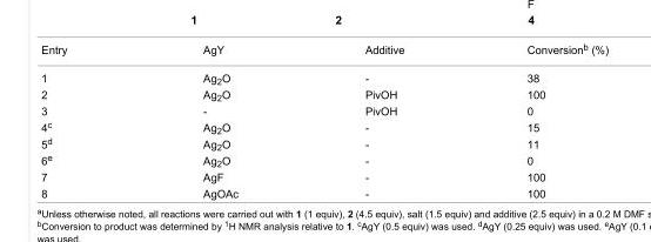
<table><tbody><tr><td>Entry</td><td>AgY</td><td>Additive</td><td>Conversion<sup>b</sup> (%)</td></tr><tr><td>1</td><td>Ag<sub>2</sub>O</td><td>-</td><td>38</td></tr><tr><td>2</td><td>Ag<sub>2</sub>O</td><td>PivOH</td><td>100</td></tr><tr><td>3</td><td>-</td><td>PivOH</td><td>0</td></tr><tr><td>4<sup>c</sup></td><td>Ag<sub>2</sub>O</td><td>-</td><td>15</td></tr><tr><td>5<sup>d</sup></td><td>Ag<sub>2</sub>O</td><td>-</td><td>11</td></tr><tr><td>6<sup>e</sup></td><td>Ag<sub>2</sub>O</td><td>-</td><td>0</td></tr><tr><td>7</td><td>AgF</td><td>-</td><td>100</td></tr><tr><td>8</td><td>AgOAc</td><td>-</td><td>100</td></tr></tbody></table>